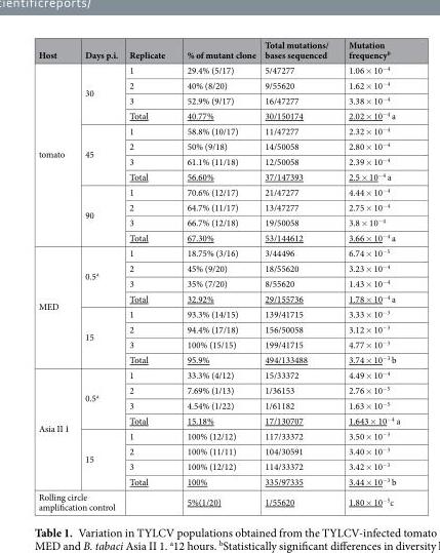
<table><thead><tr><td>Host</td><td>Days p.i.</td><td>Replicate</td><td>% of mutant clone</td><td>Total mutations/ bases sequenced</td><td>Mutation frequency<sup>b</sup></td></tr></thead><tbody><tr><td rowspan="12">tomato</td><td rowspan="4">30</td><td>1</td><td>29.4% (5/17)</td><td>5/47277</td><td>1.06 × 10<sup>−4</sup></td></tr><tr><td>2</td><td>40% (8/20)</td><td>9/55620</td><td>1.62 × 10<sup>−4</sup></td></tr><tr><td>3</td><td>52.9% (9/17)</td><td>16/47277</td><td>3.38 × 10<sup>−4</sup></td></tr><tr><td>Total</td><td>40.77%</td><td>30/150174</td><td>2.02 × 10<sup>−4</sup> a</td></tr><tr><td rowspan="4">45</td><td>1</td><td>58.8% (10/17)</td><td>11/47277</td><td>2.32 × 10<sup>−4</sup></td></tr><tr><td>2</td><td>50% (9/18)</td><td>14/50058</td><td>2.80 × 10<sup>−4</sup></td></tr><tr><td>3</td><td>61.1% (11/18)</td><td>12/50058</td><td>2.39 × 10<sup>−4</sup></td></tr><tr><td>Total</td><td>56.60%</td><td>37/147393</td><td>2.5 × 10<sup>−4</sup> a</td></tr><tr><td rowspan="4">90</td><td>1</td><td>70.6% (12/17)</td><td>21/47277</td><td>4.44 × 10<sup>−4</sup></td></tr><tr><td>2</td><td>64.7% (11/17)</td><td>13/47277</td><td>2.75 × 10<sup>−4</sup></td></tr><tr><td>3</td><td>66.7% (12/18)</td><td>19/50058</td><td>3.8 × 10<sup>−4</sup></td></tr><tr><td>Total</td><td>67.30%</td><td>53/144612</td><td>3.66 × 10<sup>−4</sup> a</td></tr><tr><td rowspan="8">MED</td><td rowspan="4">0.5<sup>a</sup></td><td>1</td><td>18.75% (3/16)</td><td>3/44496</td><td>6.74 × 10<sup>−5</sup></td></tr><tr><td>2</td><td>45% (9/20)</td><td>18/55620</td><td>3.23 × 10<sup>−4</sup></td></tr><tr><td>3</td><td>35% (7/20)</td><td>8/55620</td><td>1.43 × 10<sup>−4</sup></td></tr><tr><td>Total</td><td>32.92%</td><td>29/155736</td><td>1.78 × 10<sup>−4</sup> a</td></tr><tr><td rowspan="4">15</td><td>1</td><td>93.3% (14/15)</td><td>139/41715</td><td>3.33 × 10<sup>−3</sup></td></tr><tr><td>2</td><td>94.4% (17/18)</td><td>156/50058</td><td>3.12 × 10<sup>−3</sup></td></tr><tr><td>3</td><td>100% (15/15)</td><td>199/41715</td><td>4.77 × 10<sup>−3</sup></td></tr><tr><td>Total</td><td>95.9%</td><td>494/133488</td><td>3.74 × 10<sup>−3</sup> b</td></tr><tr><td rowspan="8">Asia II 1</td><td rowspan="4">0.5<sup>a</sup></td><td>1</td><td>33.3% (4/12)</td><td>15/33372</td><td>4.49 × 10<sup>−4</sup></td></tr><tr><td>2</td><td>7.69% (1/13)</td><td>1/36153</td><td>2.76 × 10<sup>−5</sup></td></tr><tr><td>3</td><td>4.54% (1/22)</td><td>1/61182</td><td>1.63 × 10<sup>−5</sup></td></tr><tr><td>Total</td><td>15.18%</td><td>17/130707</td><td>1.643 × 10<sup>−4</sup> a</td></tr><tr><td rowspan="4">15</td><td>1</td><td>100% (12/12)</td><td>117/33372</td><td>3.50 × 10<sup>−3</sup></td></tr><tr><td>2</td><td>100% (11/11)</td><td>104/30591</td><td>3.40 × 10<sup>−3</sup></td></tr><tr><td>3</td><td>100% (12/12)</td><td>114/33372</td><td>3.42 × 10<sup>−3</sup></td></tr><tr><td>Total</td><td>100%</td><td>335/97335</td><td>3.44 × 10<sup>−3</sup> b</td></tr><tr><td colspan="2">Rolling circle amplification control</td><td></td><td>5%(1/20)</td><td>1/55620</td><td>1.80 × 10<sup>−5</sup>c</td></tr></tbody></table>